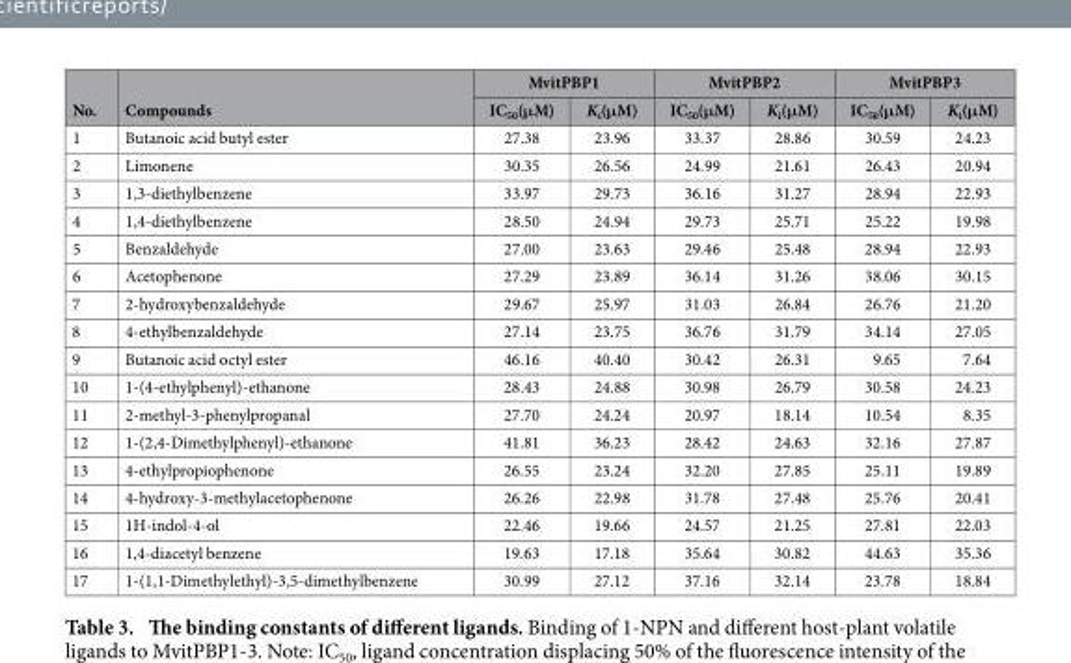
<table><thead><tr><td rowspan="2">No.</td><td rowspan="2">Compounds</td><td colspan="2">MvitPBP1</td><td colspan="2">MvitPBP2</td><td colspan="2">MvitPBP3</td></tr><tr><td>IC<sub>50</sub>(μM)</td><td>K<sub>i</sub>(μM)</td><td>IC<sub>50</sub>(μM)</td><td>K<sub>i</sub>(μM)</td><td>IC<sub>50</sub>(μM)</td><td>K<sub>i</sub>(μM)</td></tr></thead><tbody><tr><td>1</td><td>Butanoic acid butyl ester</td><td>27.38</td><td>23.96</td><td>33.37</td><td>28.86</td><td>30.59</td><td>24.23</td></tr><tr><td>2</td><td>Limonene</td><td>30.35</td><td>26.56</td><td>24.99</td><td>21.61</td><td>26.43</td><td>20.94</td></tr><tr><td>3</td><td>1,3-diethylbenzene</td><td>33.97</td><td>29.73</td><td>36.16</td><td>31.27</td><td>28.94</td><td>22.93</td></tr><tr><td>4</td><td>1,4-diethylbenzene</td><td>28.50</td><td>24.94</td><td>29.73</td><td>25.71</td><td>25.22</td><td>19.98</td></tr><tr><td>5</td><td>Benzaldehyde</td><td>27.00</td><td>23.63</td><td>29.46</td><td>25.48</td><td>28.94</td><td>22.93</td></tr><tr><td>6</td><td>Acetophenone</td><td>27.29</td><td>23.89</td><td>36.14</td><td>31.26</td><td>38.06</td><td>30.15</td></tr><tr><td>7</td><td>2-hydroxybenzaldehyde</td><td>29.67</td><td>25.97</td><td>31.03</td><td>26.84</td><td>26.76</td><td>21.20</td></tr><tr><td>8</td><td>4-ethylbenzaldehyde</td><td>27.14</td><td>23.75</td><td>36.76</td><td>31.79</td><td>34.14</td><td>27.05</td></tr><tr><td>9</td><td>Butanoic acid octyl ester</td><td>46.16</td><td>40.40</td><td>30.42</td><td>26.31</td><td>9.65</td><td>7.64</td></tr><tr><td>10</td><td>1-(4-ethylphenyl)-ethanone</td><td>28.43</td><td>24.88</td><td>30.98</td><td>26.79</td><td>30.58</td><td>24.23</td></tr><tr><td>11</td><td>2-methyl-3-phenylpropanal</td><td>27.70</td><td>24.24</td><td>20.97</td><td>18.14</td><td>10.54</td><td>8.35</td></tr><tr><td>12</td><td>1-(2,4-Dimethylphenyl)-ethanone</td><td>41.81</td><td>36.23</td><td>28.42</td><td>24.63</td><td>32.16</td><td>27.87</td></tr><tr><td>13</td><td>4-ethylpropiophenone</td><td>26.55</td><td>23.24</td><td>32.20</td><td>27.85</td><td>25.11</td><td>19.89</td></tr><tr><td>14</td><td>4-hydroxy-3-methylacetophenone</td><td>26.26</td><td>22.98</td><td>31.78</td><td>27.48</td><td>25.76</td><td>20.41</td></tr><tr><td>15</td><td>1H-indol-4-ol</td><td>22.46</td><td>19.66</td><td>24.57</td><td>21.25</td><td>27.81</td><td>22.03</td></tr><tr><td>16</td><td>1,4-diacetyl benzene</td><td>19.63</td><td>17.18</td><td>35.64</td><td>30.82</td><td>44.63</td><td>35.36</td></tr><tr><td>17</td><td>1-(1,1-Dimethylethyl)-3,5-dimethylbenzene</td><td>30.99</td><td>27.12</td><td>37.16</td><td>32.14</td><td>23.78</td><td>18.84</td></tr></tbody></table>